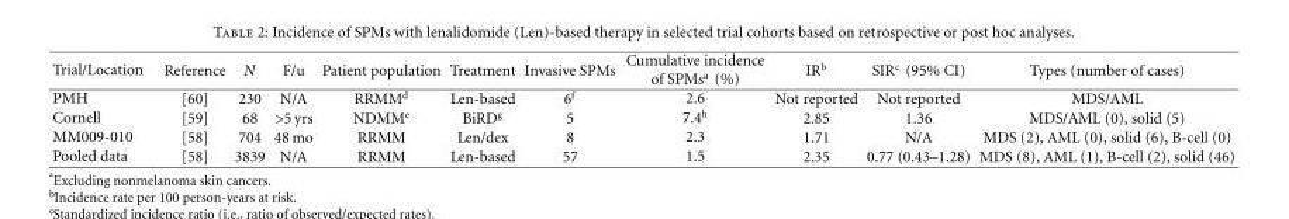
<table><thead><tr><td>Trial/Location</td><td>Reference</td><td>N</td><td>F/u</td><td>Patient population</td><td>Treatment</td><td>Invasive SPMs</td><td>Cumulative incidence of SPMs<sup>a</sup> (%)</td><td>IR<sup>b</sup></td><td>SIR<sup>c</sup> (95% CI)</td><td>Types (number of cases)</td></tr></thead><tbody><tr><td>PMH</td><td>[60]</td><td>230</td><td>N/A</td><td>RRMM<sup>d</sup></td><td>Len-based</td><td>6<sup>f</sup></td><td>2.6</td><td>Not reported</td><td>Not reported</td><td>MDS/AML</td></tr><tr><td>Cornell</td><td>[59]</td><td>68</td><td>&gt;5 yrs</td><td>NDMM<sup>e</sup></td><td>BiRD<sup>g</sup></td><td>5</td><td>7.4<sup>h</sup></td><td>2.85</td><td>1.36</td><td>MDS/AML (0), solid (5)</td></tr><tr><td>MM009-010</td><td>[58]</td><td>704</td><td>48 mo</td><td>RRMM</td><td>Len/dex</td><td>8</td><td>2.3</td><td>1.71</td><td>N/A</td><td>MDS (2), AML (0), solid (6), B-cell (0)</td></tr><tr><td>Pooled data</td><td>[58]</td><td>3839</td><td>N/A</td><td>RRMM</td><td>Len-based</td><td>57</td><td>1.5</td><td>2.35</td><td>0.77 (0.43–1.28)</td><td>MDS (8), AML (1), B-cell (2), solid (46)</td></tr></tbody></table>